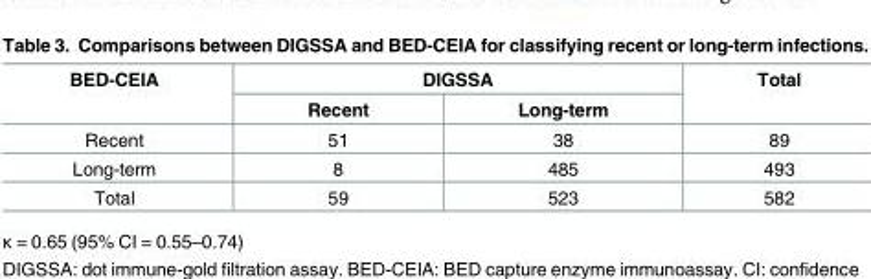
<table><thead><tr><td rowspan="2">BED-CEIA</td><td colspan="2">DIGSSA</td><td rowspan="2">Total</td></tr><tr><td>Recent</td><td>Long-term</td></tr></thead><tbody><tr><td>Recent</td><td>51</td><td>38</td><td>89</td></tr><tr><td>Long-term</td><td>8</td><td>485</td><td>493</td></tr><tr><td>Total</td><td>59</td><td>523</td><td>582</td></tr></tbody></table>